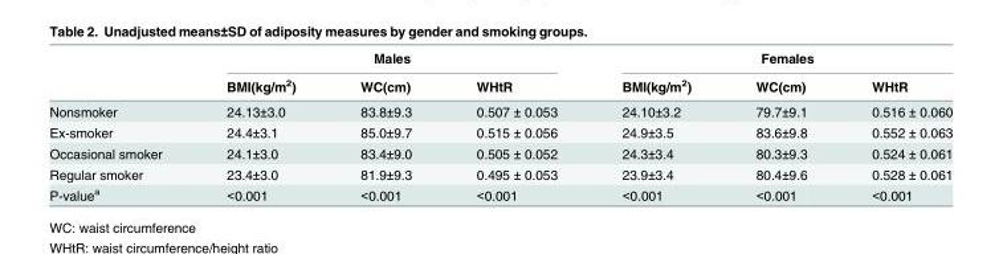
<table><thead><tr><td rowspan="2"></td><td colspan="3">Males</td><td colspan="3">Females</td></tr><tr><td>BMI(kg/m<sup>2</sup>)</td><td>WC(cm)</td><td>WHtR</td><td>BMI(kg/m<sup>2</sup>)</td><td>WC(cm)</td><td>WHtR</td></tr></thead><tbody><tr><td>Nonsmoker</td><td>24.13±3.0</td><td>83.8±9.3</td><td>0.507 ± 0.053</td><td>24.10±3.2</td><td>79.7±9.1</td><td>0.516 ± 0.060</td></tr><tr><td>Ex-smoker</td><td>24.4±3.1</td><td>85.0±9.7</td><td>0.515 ± 0.056</td><td>24.9±3.5</td><td>83.6±9.8</td><td>0.552 ± 0.063</td></tr><tr><td>Occasional smoker</td><td>24.1±3.0</td><td>83.4±9.0</td><td>0.505 ± 0.052</td><td>24.3±3.4</td><td>80.3±9.3</td><td>0.524 ± 0.061</td></tr><tr><td>Regular smoker</td><td>23.4±3.0</td><td>81.9±9.3</td><td>0.495 ± 0.053</td><td>23.9±3.4</td><td>80.4±9.6</td><td>0.528 ± 0.061</td></tr><tr><td>P-value<sup>a</sup></td><td>&lt;0.001</td><td>&lt;0.001</td><td>&lt;0.001</td><td>&lt;0.001</td><td>&lt;0.001</td><td>&lt;0.001</td></tr></tbody></table>